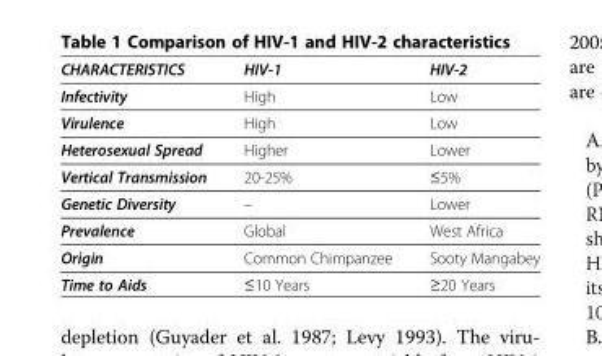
<table><thead><tr><td>CHARACTERISTICS</td><td>HIV-1</td><td>HIV-2</td></tr></thead><tbody><tr><td>Infectivity</td><td>High</td><td>Low</td></tr><tr><td>Virulence</td><td>High</td><td>Low</td></tr><tr><td>Heterosexual Spread</td><td>Higher</td><td>Lower</td></tr><tr><td>Vertical Transmission</td><td>20-25%</td><td>≤5%</td></tr><tr><td>Genetic Diversity</td><td>–</td><td>Lower</td></tr><tr><td>Prevalence</td><td>Global</td><td>West Africa</td></tr><tr><td>Origin</td><td>Common Chimpanzee</td><td>Sooty Mangabey</td></tr><tr><td>Time to Aids</td><td>≤10 Years</td><td>≥20 Years</td></tr></tbody></table>